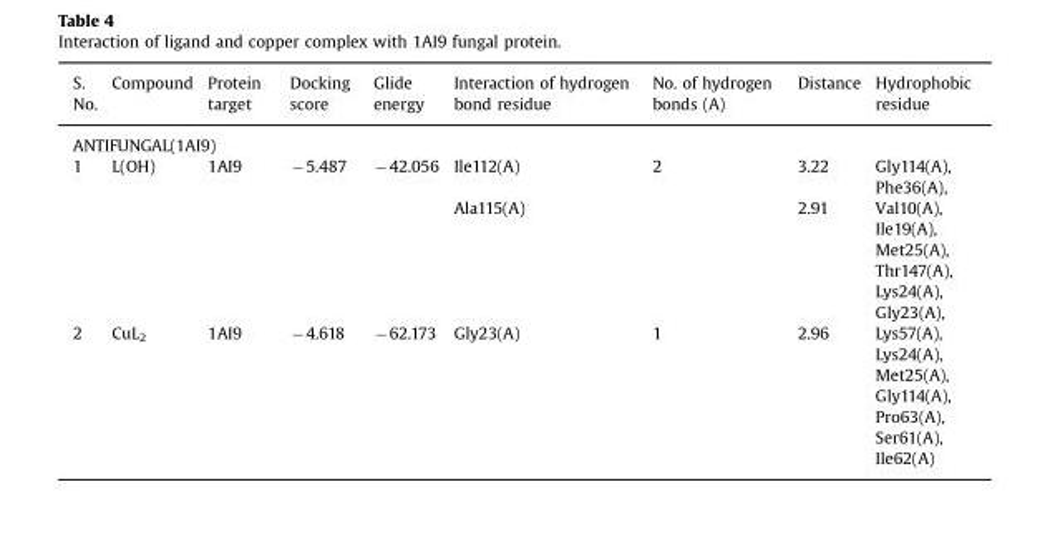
<table><thead><tr><td>S. No.</td><td>Compound</td><td>Protein target</td><td>Docking score</td><td>Glide energy</td><td>Interaction of hydrogen bond residue</td><td>No. of hydrogen bonds (A)</td><td>Distance</td><td>Hydrophobic residue</td></tr></thead><tbody><tr><td colspan="9">ANTIFUNGAL(1AI9)</td></tr><tr><td rowspan="4">1</td><td rowspan="4">L(OH)</td><td rowspan="4">1AI9</td><td rowspan="4">−5.487</td><td rowspan="4">−42.056</td><td>Ile112(A)</td><td rowspan="4">2</td><td>3.22</td><td>Gly114(A), Phe36(A),</td></tr><tr><td rowspan="3">Ala115(A)</td><td rowspan="3">2.91</td><td>Val10(A), Ile19(A),</td></tr><tr><td>Met25(A), Thr147(A),</td></tr><tr><td>Lys24(A), Gly23(A),</td></tr><tr><td rowspan="4">2</td><td rowspan="4">CuL<sub>2</sub></td><td rowspan="4">1AI9</td><td rowspan="4">−4.618</td><td rowspan="4">−62.173</td><td rowspan="4">Gly23(A)</td><td rowspan="4">1</td><td rowspan="4">2.96</td><td>Lys57(A), Lys24(A),</td></tr><tr><td>Met25(A), Gly114(A),</td></tr><tr><td>Pro63(A), Ser61(A),</td></tr><tr><td>Ile62(A)</td></tr></tbody></table>